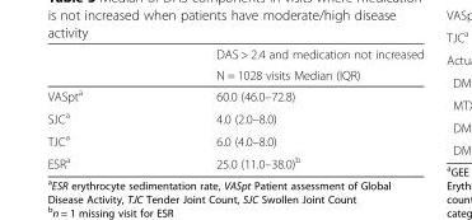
<table><thead><tr><td rowspan="2"></td><td rowspan="2">DAS &gt; 2.4 and medication not increased N = 1028 visits Median (IQR)</td></tr><tr></tr></thead><tbody><tr><td>VASpt<sup>a</sup></td><td>60.0 (46.0–72.8)</td></tr><tr><td>SJC<sup>a</sup></td><td>4.0 (2.0–8.0)</td></tr><tr><td>TJC<sup>a</sup></td><td>6.0 (4.0–8.0)</td></tr><tr><td>ESR<sup>a</sup></td><td>25.0 (11.0–38.0)<sup>b</sup></td></tr></tbody></table>